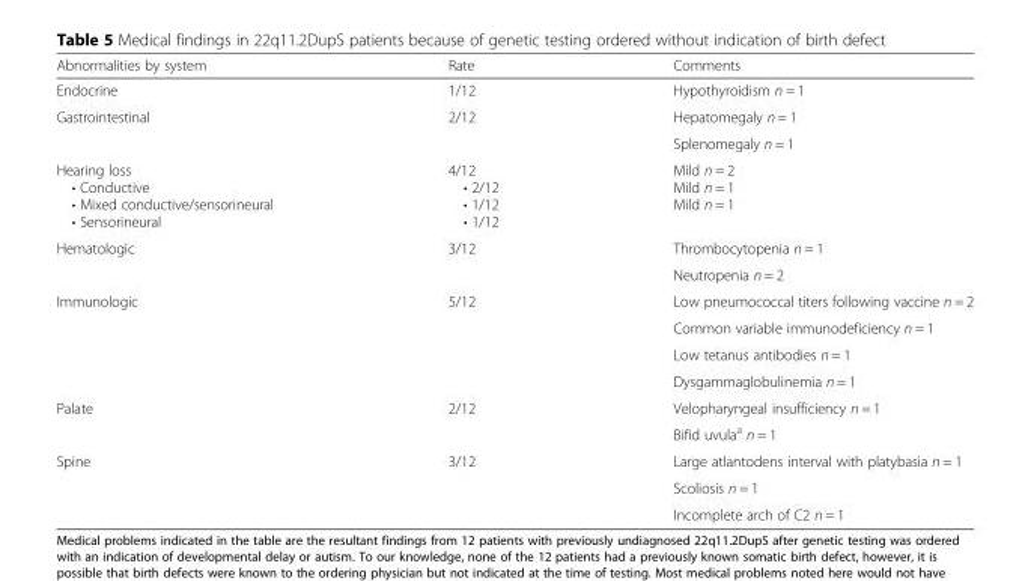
<table><thead><tr><td>Abnormalities by system</td><td>Rate</td><td>Comments</td></tr></thead><tbody><tr><td>Endocrine</td><td>1/12</td><td>Hypothyroidism n = 1</td></tr><tr><td rowspan="2">Gastrointestinal</td><td rowspan="2">2/12</td><td>Hepatomegaly n = 1</td></tr><tr><td>Splenomegaly n = 1</td></tr><tr><td>Hearing loss • Conductive • Mixed conductive/sensorineural • Sensorineural</td><td>4/12 • 2/12 • 1/12 • 1/12</td><td>Mild n = 2 Mild n = 1 Mild n = 1</td></tr><tr><td rowspan="2">Hematologic</td><td rowspan="2">3/12</td><td>Thrombocytopenia n = 1</td></tr><tr><td>Neutropenia n = 2</td></tr><tr><td rowspan="4">Immunologic</td><td rowspan="4">5/12</td><td>Low pneumococcal titers following vaccine n = 2</td></tr><tr><td>Common variable immunodeficiency n = 1</td></tr><tr><td>Low tetanus antibodies n = 1</td></tr><tr><td>Dysgammaglobulinemia n = 1</td></tr><tr><td rowspan="2">Palate</td><td rowspan="2">2/12</td><td>Velopharyngeal insufficiency n = 1</td></tr><tr><td>Bifid uvula<sup>a</sup> n = 1</td></tr><tr><td rowspan="3">Spine</td><td rowspan="3">3/12</td><td>Large atlantodens interval with platybasia n = 1</td></tr><tr><td>Scoliosis n = 1</td></tr><tr><td>Incomplete arch of C2 n = 1</td></tr></tbody></table>